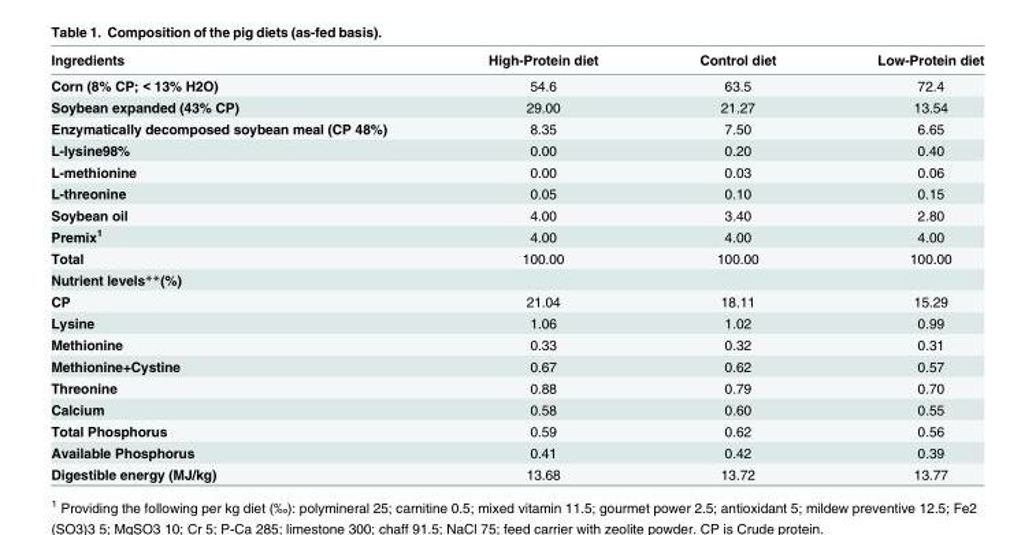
<table><thead><tr><td>Ingredients</td><td>High-Protein diet</td><td>Control diet</td><td>Low-Protein diet</td></tr></thead><tbody><tr><td>Corn (8% CP; &lt; 13% H2O)</td><td>54.6</td><td>63.5</td><td>72.4</td></tr><tr><td>Soybean expanded (43% CP)</td><td>29.00</td><td>21.27</td><td>13.54</td></tr><tr><td>Enzymatically decomposed soybean meal (CP 48%)</td><td>8.35</td><td>7.50</td><td>6.65</td></tr><tr><td>L-lysine98%</td><td>0.00</td><td>0.20</td><td>0.40</td></tr><tr><td>L-methionine</td><td>0.00</td><td>0.03</td><td>0.06</td></tr><tr><td>L-threonine</td><td>0.05</td><td>0.10</td><td>0.15</td></tr><tr><td>Soybean oil</td><td>4.00</td><td>3.40</td><td>2.80</td></tr><tr><td>Premix<sup>1</sup></td><td>4.00</td><td>4.00</td><td>4.00</td></tr><tr><td>Total</td><td>100.00</td><td>100.00</td><td>100.00</td></tr><tr><td colspan="4">Nutrient levels**(%)</td></tr><tr><td>CP</td><td>21.04</td><td>18.11</td><td>15.29</td></tr><tr><td>Lysine</td><td>1.06</td><td>1.02</td><td>0.99</td></tr><tr><td>Methionine</td><td>0.33</td><td>0.32</td><td>0.31</td></tr><tr><td>Methionine+Cystine</td><td>0.67</td><td>0.62</td><td>0.57</td></tr><tr><td>Threonine</td><td>0.88</td><td>0.79</td><td>0.70</td></tr><tr><td>Calcium</td><td>0.58</td><td>0.60</td><td>0.55</td></tr><tr><td>Total Phosphorus</td><td>0.59</td><td>0.62</td><td>0.56</td></tr><tr><td>Available Phosphorus</td><td>0.41</td><td>0.42</td><td>0.39</td></tr><tr><td>Digestible energy (MJ/kg)</td><td>13.68</td><td>13.72</td><td>13.77</td></tr></tbody></table>